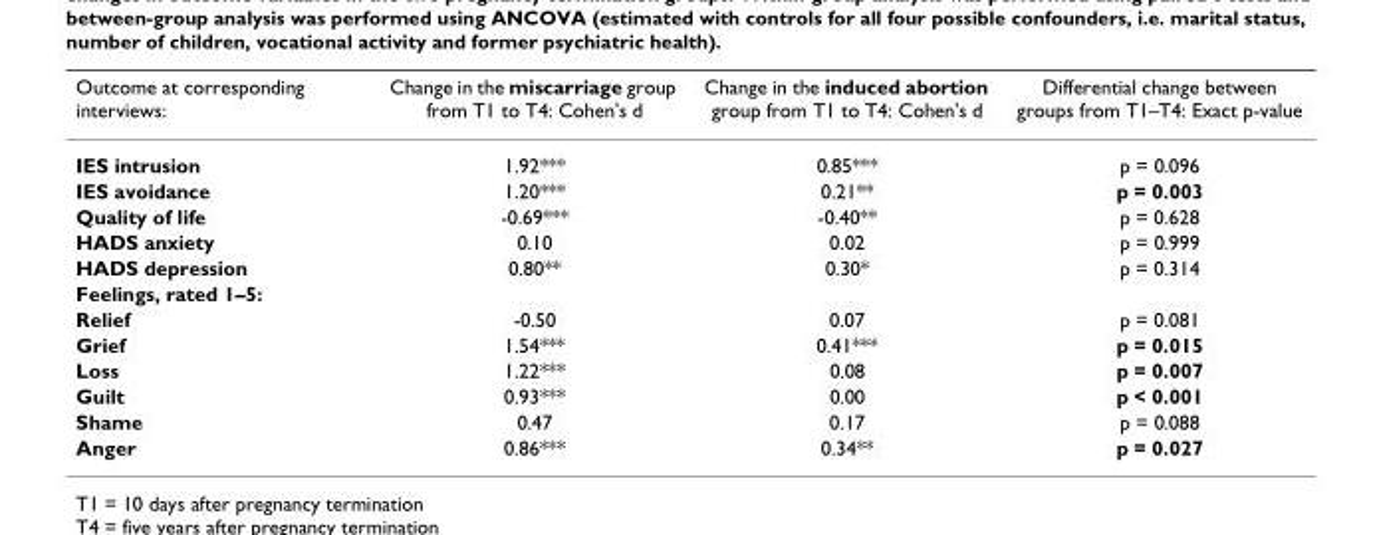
<table><thead><tr><td>Outcome at corresponding interviews:</td><td>Change in the miscarriage group from T1 to T4: Cohen&#x27;s d</td><td>Change in the induced abortion group from T1 to T4: Cohen&#x27;s d</td><td>Differential change between groups from T1–T4: Exact p-value</td></tr></thead><tbody><tr><td>IES intrusion</td><td>1.92***</td><td>0.85***</td><td>p = 0.096</td></tr><tr><td>IES avoidance</td><td>1.20***</td><td>0.21**</td><td>p = 0.003</td></tr><tr><td>Quality of life</td><td>-0.69***</td><td>-0.40**</td><td>p = 0.628</td></tr><tr><td>HADS anxiety</td><td>0.10</td><td>0.02</td><td>p = 0.999</td></tr><tr><td>HADS depression</td><td>0.80**</td><td>0.30*</td><td>p = 0.314</td></tr><tr><td colspan="4">Feelings, rated 1–5:</td></tr><tr><td>Relief</td><td>-0.50</td><td>0.07</td><td>p = 0.081</td></tr><tr><td>Grief</td><td>1.54***</td><td>0.41***</td><td>p = 0.015</td></tr><tr><td>Loss</td><td>1.22***</td><td>0.08</td><td>p = 0.007</td></tr><tr><td>Guilt</td><td>0.93***</td><td>0.00</td><td>p &lt; 0.001</td></tr><tr><td>Shame</td><td>0.47</td><td>0.17</td><td>p = 0.088</td></tr><tr><td>Anger</td><td>0.86***</td><td>0.34**</td><td>p = 0.027</td></tr></tbody></table>